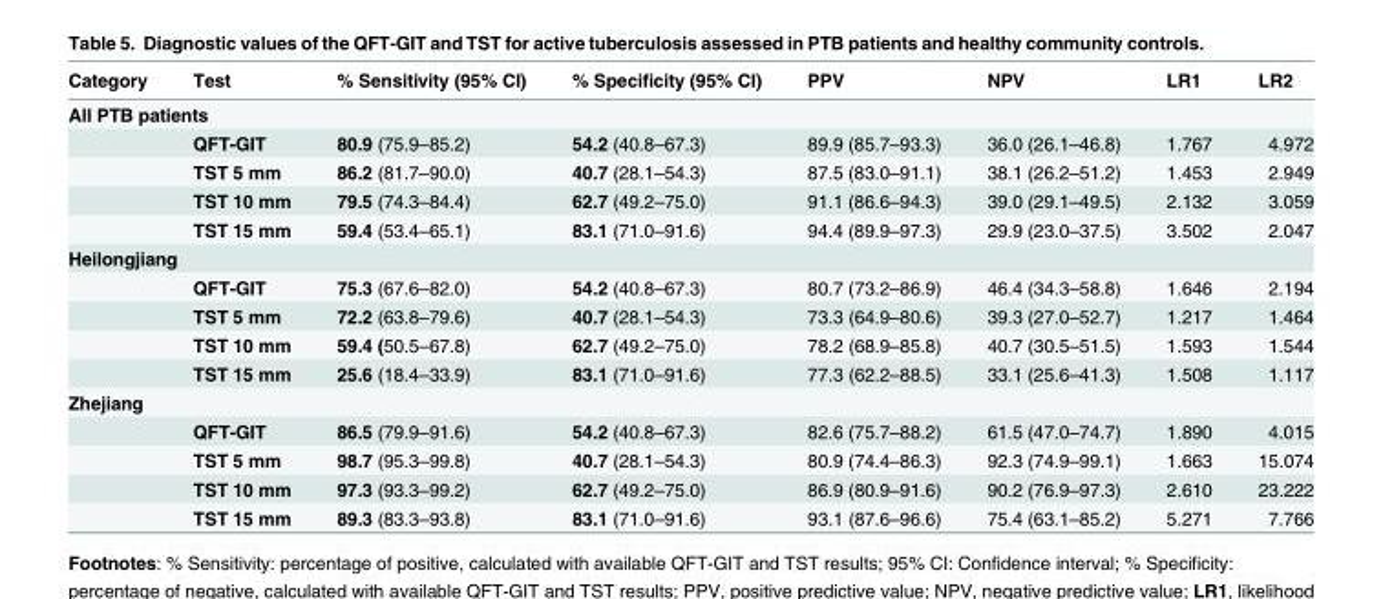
<table><thead><tr><td>Category</td><td>Test</td><td>% Sensitivity (95% CI)</td><td>% Specificity (95% CI)</td><td>PPV</td><td>NPV</td><td>LR1</td><td>LR2</td></tr></thead><tbody><tr><td colspan="8">All PTB patients</td></tr><tr><td></td><td>QFT-GIT</td><td>80.9 (75.9–85.2)</td><td>54.2 (40.8–67.3)</td><td>89.9 (85.7–93.3)</td><td>36.0 (26.1–46.8)</td><td>1.767</td><td>4.972</td></tr><tr><td></td><td>TST 5 mm</td><td>86.2 (81.7–90.0)</td><td>40.7 (28.1–54.3)</td><td>87.5 (83.0–91.1)</td><td>38.1 (26.2–51.2)</td><td>1.453</td><td>2.949</td></tr><tr><td></td><td>TST 10 mm</td><td>79.5 (74.3–84.4)</td><td>62.7 (49.2–75.0)</td><td>91.1 (86.6–94.3)</td><td>39.0 (29.1–49.5)</td><td>2.132</td><td>3.059</td></tr><tr><td></td><td>TST 15 mm</td><td>59.4 (53.4–65.1)</td><td>83.1 (71.0–91.6)</td><td>94.4 (89.9–97.3)</td><td>29.9 (23.0–37.5)</td><td>3.502</td><td>2.047</td></tr><tr><td colspan="8">Heilongjiang</td></tr><tr><td></td><td>QFT-GIT</td><td>75.3 (67.6–82.0)</td><td>54.2 (40.8–67.3)</td><td>80.7 (73.2–86.9)</td><td>46.4 (34.3–58.8)</td><td>1.646</td><td>2.194</td></tr><tr><td></td><td>TST 5 mm</td><td>72.2 (63.8–79.6)</td><td>40.7 (28.1–54.3)</td><td>73.3 (64.9–80.6)</td><td>39.3 (27.0–52.7)</td><td>1.217</td><td>1.464</td></tr><tr><td></td><td>TST 10 mm</td><td>59.4 (50.5–67.8)</td><td>62.7 (49.2–75.0)</td><td>78.2 (68.9–85.8)</td><td>40.7 (30.5–51.5)</td><td>1.593</td><td>1.544</td></tr><tr><td></td><td>TST 15 mm</td><td>25.6 (18.4–33.9)</td><td>83.1 (71.0–91.6)</td><td>77.3 (62.2–88.5)</td><td>33.1 (25.6–41.3)</td><td>1.508</td><td>1.117</td></tr><tr><td colspan="8">Zhejiang</td></tr><tr><td></td><td>QFT-GIT</td><td>86.5 (79.9–91.6)</td><td>54.2 (40.8–67.3)</td><td>82.6 (75.7–88.2)</td><td>61.5 (47.0–74.7)</td><td>1.890</td><td>4.015</td></tr><tr><td></td><td>TST 5 mm</td><td>98.7 (95.3–99.8)</td><td>40.7 (28.1–54.3)</td><td>80.9 (74.4–86.3)</td><td>92.3 (74.9–99.1)</td><td>1.663</td><td>15.074</td></tr><tr><td></td><td>TST 10 mm</td><td>97.3 (93.3–99.2)</td><td>62.7 (49.2–75.0)</td><td>86.9 (80.9–91.6)</td><td>90.2 (76.9–97.3)</td><td>2.610</td><td>23.222</td></tr><tr><td></td><td>TST 15 mm</td><td>89.3 (83.3–93.8)</td><td>83.1 (71.0–91.6)</td><td>93.1 (87.6–96.6)</td><td>75.4 (63.1–85.2)</td><td>5.271</td><td>7.766</td></tr></tbody></table>